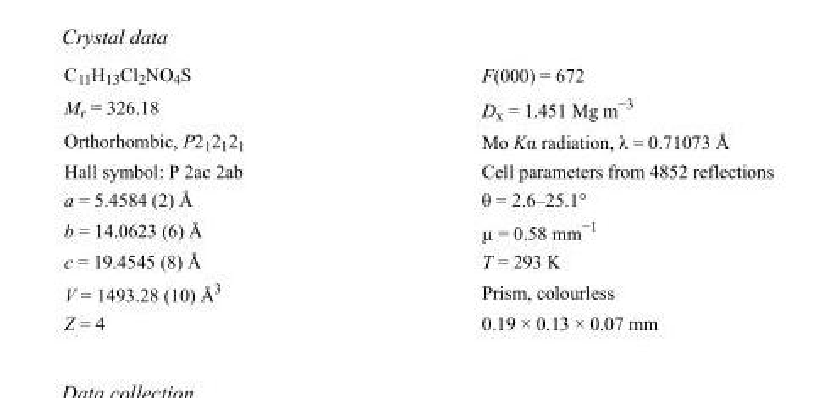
<table><tbody><tr><td>C<sub>11</sub>H<sub>13</sub>Cl<sub>2</sub>NO<sub>4</sub>S</td><td>F(000) = 672</td></tr><tr><td>M<sub>r</sub> = 326.18</td><td>D<sub>x</sub> = 1.451 Mg m<sup>−3</sup></td></tr><tr><td>Orthorhombic, P2<sub>1</sub>2<sub>1</sub>2<sub>1</sub></td><td>Mo Kα radiation, λ = 0.71073 Å</td></tr><tr><td>Hall symbol: P 2ac 2ab</td><td>Cell parameters from 4852 reflections</td></tr><tr><td>a = 5.4584 (2) Å</td><td>θ = 2.6–25.1°</td></tr><tr><td>b = 14.0623 (6) Å</td><td>µ = 0.58 mm<sup>−1</sup></td></tr><tr><td>c = 19.4545 (8) Å</td><td>T = 293 K</td></tr><tr><td>V = 1493.28 (10) Å<sup>3</sup></td><td>Prism, colourless</td></tr><tr><td>Z = 4</td><td>0.19 × 0.13 × 0.07 mm</td></tr></tbody></table>